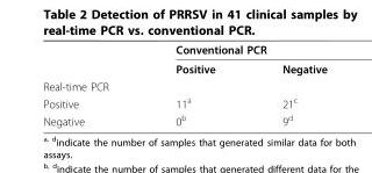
<table><thead><tr><td rowspan="2"></td><td colspan="2">Conventional PCR</td></tr><tr><td>Positive</td><td>Negative</td></tr></thead><tbody><tr><td colspan="3">Real-time PCR</td></tr><tr><td>Positive</td><td>11<sup>a</sup></td><td>21<sup>c</sup></td></tr><tr><td>Negative</td><td>0<sup>b</sup></td><td>9<sup>d</sup></td></tr></tbody></table>